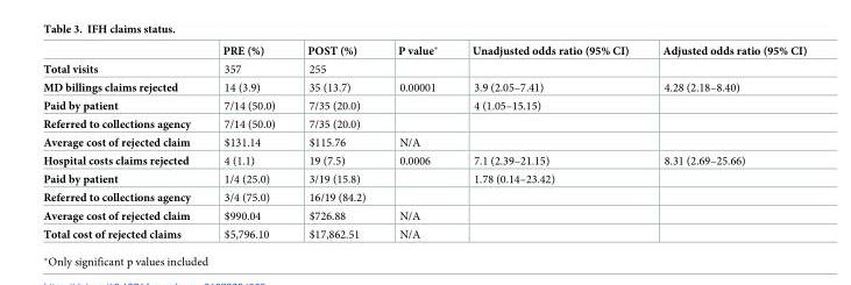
<table><thead><tr><td></td><td>PRE (%)</td><td>POST (%)</td><td>P value*</td><td>Unadjusted odds ratio (95% CI)</td><td>Adjusted odds ratio (95% CI)</td></tr></thead><tbody><tr><td>Total visits</td><td>357</td><td>255</td><td></td><td></td><td></td></tr><tr><td>MD billings claims rejected</td><td>14 (3.9)</td><td>35 (13.7)</td><td>0.00001</td><td>3.9 (2.05–7.41)</td><td>4.28 (2.18–8.40)</td></tr><tr><td>Paid by patient</td><td>7/14 (50.0)</td><td>7/35 (20.0)</td><td></td><td>4 (1.05–15.15)</td><td></td></tr><tr><td>Referred to collections agency</td><td>7/14 (50.0)</td><td>7/35 (20.0)</td><td></td><td></td><td></td></tr><tr><td>Average cost of rejected claim</td><td>$131.14</td><td>$115.76</td><td>N/A</td><td></td><td></td></tr><tr><td>Hospital costs claims rejected</td><td>4 (1.1)</td><td>19 (7.5)</td><td>0.0006</td><td>7.1 (2.39–21.15)</td><td>8.31 (2.69–25.66)</td></tr><tr><td>Paid by patient</td><td>1/4 (25.0)</td><td>3/19 (15.8)</td><td></td><td>1.78 (0.14–23.42)</td><td></td></tr><tr><td>Referred to collections agency</td><td>3/4 (75.0)</td><td>16/19 (84.2)</td><td></td><td></td><td></td></tr><tr><td>Average cost of rejected claim</td><td>$990.04</td><td>$726.88</td><td>N/A</td><td></td><td></td></tr><tr><td>Total cost of rejected claims</td><td>$5,796.10</td><td>$17,862.51</td><td>N/A</td><td></td><td></td></tr></tbody></table>